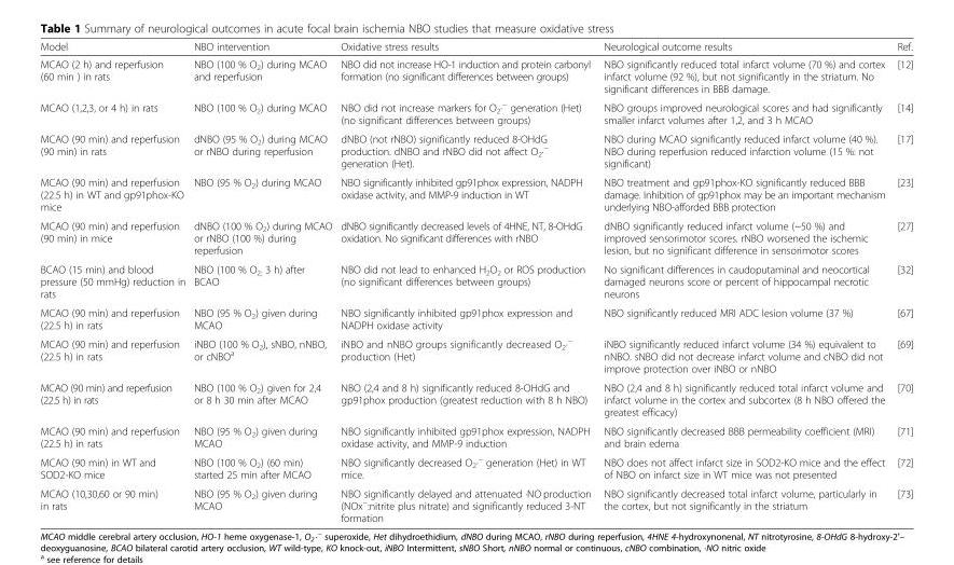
<table><thead><tr><td>Model</td><td>NBO intervention</td><td>Oxidative stress results</td><td>Neurological outcome results</td><td>Ref.</td></tr></thead><tbody><tr><td>MCAO (2 h) and reperfusion (60 min ) in rats</td><td>NBO (100 % O<sub>2</sub>) during MCAO and reperfusion</td><td>NBO did not increase HO-1 induction and protein carbonyl formation (no significant differences between groups)</td><td>NBO significantly reduced total infarct volume (70 %) and cortex infarct volume (92 %), but not significantly in the striatum. No significant differences in BBB damage.</td><td>[12]</td></tr><tr><td>MCAO (1,2,3, or 4 h) in rats</td><td>NBO (100 % O<sub>2</sub>) during MCAO</td><td>NBO did not increase markers for O<sub>2</sub>·<sup>−</sup> generation (Het) (no significant differences between groups)</td><td>NBO groups improved neurological scores and had significantly smaller infarct volumes after 1,2, and 3 h MCAO</td><td>[14]</td></tr><tr><td>MCAO (90 min) and reperfusion (90 min) in rats</td><td>dNBO (95 % O<sub>2</sub>) during MCAO or rNBO during reperfusion</td><td>dNBO (not rNBO) significantly reduced 8-OHdG production. dNBO and rNBO did not affect O<sub>2</sub>·<sup>−</sup> generation (Het).</td><td>NBO during MCAO significantly reduced infarct volume (40 %). NBO during reperfusion reduced infarction volume (15 %: not significant)</td><td>[17]</td></tr><tr><td>MCAO (90 min) and reperfusion (22.5 h) in WT and gp91phox-KO mice</td><td>NBO (95 % O<sub>2</sub>) during MCAO</td><td>NBO significantly inhibited gp91phox expression, NADPH oxidase activity, and MMP-9 induction in WT</td><td>NBO treatment and gp91phox-KO significantly reduced BBB damage. Inhibition of gp91phox may be an important mechanism underlying NBO-afforded BBB protection</td><td>[23]</td></tr><tr><td>MCAO (90 min) and reperfusion (90 min) in mice</td><td>dNBO (100 % O<sub>2</sub>) during MCAO or rNBO (100 %) during reperfusion</td><td>dNBO significantly decreased levels of 4HNE, NT, 8-OHdG oxidation. No significant differences with rNBO</td><td>dNBO significantly reduced infarct volume (~50 %) and improved sensorimotor scores. rNBO worsened the ischemic lesion, but no significant difference in sensorimotor scores</td><td>[27]</td></tr><tr><td>BCAO (15 min) and blood pressure (50 mmHg) reduction in rats</td><td>NBO (100 % O<sub>2;</sub> 3 h) after BCAO</td><td>NBO did not lead to enhanced H<sub>2</sub>O<sub>2</sub> or ROS production (no significant differences between groups)</td><td>No significant differences in caudoputaminal and neocortical damaged neurons score or percent of hippocampal necrotic neurons</td><td>[32]</td></tr><tr><td>MCAO (90 min) and reperfusion (22.5 h) in rats</td><td>NBO (95 % O<sub>2</sub>) given during MCAO</td><td>NBO significantly inhibited gp91phox expression and NADPH oxidase activity</td><td>NBO significantly reduced MRI ADC lesion volume (37 %)</td><td>[67]</td></tr><tr><td>MCAO (90 min) and reperfusion (22.5 h) in rats</td><td>iNBO (100 % O<sub>2</sub>), sNBO, nNBO, or cNBO<sup>a</sup></td><td>iNBO and nNBO groups significantly decreased O<sub>2</sub>·<sup>−</sup> production (Het)</td><td>iNBO significantly reduced infarct volume (34 %) equivalent to nNBO. sNBO did not decrease infarct volume and cNBO did not improve protection over iNBO or nNBO</td><td>[69]</td></tr><tr><td>MCAO (90 min) and reperfusion (22.5 h) in rats</td><td>NBO (100 % O<sub>2</sub>) given for 2,4 or 8 h 30 min after MCAO</td><td>NBO (2,4 and 8 h) significantly reduced 8-OHdG and gp91phox production (greatest reduction with 8 h NBO)</td><td>NBO (2,4 and 8 h) significantly reduced total infarct volume and infarct volume in the cortex and subcortex (8 h NBO offered the greatest efficacy)</td><td>[70]</td></tr><tr><td>MCAO (90 min) and reperfusion (22.5 h) in rats</td><td>NBO (95 % O<sub>2</sub>) given during MCAO</td><td>NBO significantly inhibited gp91phox expression, NADPH oxidase activity, and MMP-9 induction</td><td>NBO significantly decreased BBB permeability coefficient (MRI) and brain edema</td><td>[71]</td></tr><tr><td>MCAO (90 min) in WT and SOD2-KO mice</td><td>NBO (100 % O<sub>2</sub>) (60 min) started 25 min after MCAO</td><td>NBO significantly decreased O<sub>2</sub>·<sup>−</sup> generation (Het) in WT mice.</td><td>NBO does not affect infarct size in SOD2-KO mice and the effect of NBO on infarct size in WT mice was not presented</td><td>[72]</td></tr><tr><td>MCAO (10,30,60 or 90 min) in rats</td><td>NBO (95 % O<sub>2</sub>) given during MCAO</td><td>NBO significantly delayed and attenuated ·NO production (NOx<sup>−</sup>:nitrite plus nitrate) and significantly reduced 3-NT formation</td><td>NBO significantly decreased total infarct volume, particularly in the cortex, but not significantly in the striatum</td><td>[73]</td></tr></tbody></table>